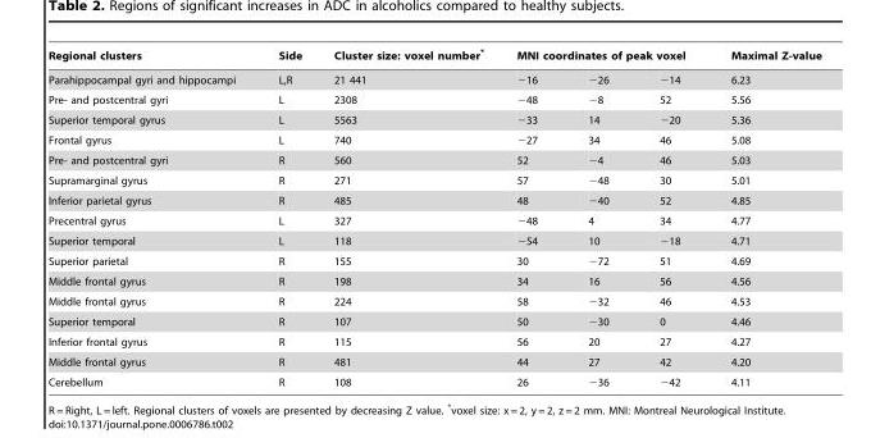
<table><thead><tr><td rowspan="2">Regional clusters Parahippocampal gyri and hippocampi</td><td rowspan="2">Side L,R</td><td rowspan="2">Cluster size: voxel number* 21 441</td><td colspan="3">MNI coordinates of peak voxel</td><td rowspan="2">Maximal Z-value 6.23</td></tr><tr><td>−16</td><td>−26</td><td>−14</td></tr></thead><tbody><tr><td>Pre- and postcentral gyri</td><td>L</td><td>2308</td><td>−48</td><td>−8</td><td>52</td><td>5.56</td></tr><tr><td>Superior temporal gyrus</td><td>L</td><td>5563</td><td>−33</td><td>14</td><td>−20</td><td>5.36</td></tr><tr><td>Frontal gyrus</td><td>L</td><td>740</td><td>−27</td><td>34</td><td>46</td><td>5.08</td></tr><tr><td>Pre- and postcentral gyri</td><td>R</td><td>560</td><td>52</td><td>−4</td><td>46</td><td>5.03</td></tr><tr><td>Supramarginal gyrus</td><td>R</td><td>271</td><td>57</td><td>−48</td><td>30</td><td>5.01</td></tr><tr><td>Inferior parietal gyrus</td><td>R</td><td>485</td><td>48</td><td>−40</td><td>52</td><td>4.85</td></tr><tr><td>Precentral gyrus</td><td>L</td><td>327</td><td>−48</td><td>4</td><td>34</td><td>4.77</td></tr><tr><td>Superior temporal</td><td>L</td><td>118</td><td>−54</td><td>10</td><td>−18</td><td>4.71</td></tr><tr><td>Superior parietal</td><td>R</td><td>155</td><td>30</td><td>−72</td><td>51</td><td>4.69</td></tr><tr><td>Middle frontal gyrus</td><td>R</td><td>198</td><td>34</td><td>16</td><td>56</td><td>4.56</td></tr><tr><td>Middle frontal gyrus</td><td>R</td><td>224</td><td>58</td><td>−32</td><td>46</td><td>4.53</td></tr><tr><td>Superior temporal</td><td>R</td><td>107</td><td>50</td><td>−30</td><td>0</td><td>4.46</td></tr><tr><td>Inferior frontal gyrus</td><td>R</td><td>115</td><td>56</td><td>20</td><td>27</td><td>4.27</td></tr><tr><td>Middle frontal gyrus</td><td>R</td><td>481</td><td>44</td><td>27</td><td>42</td><td>4.20</td></tr><tr><td>Cerebellum</td><td>R</td><td>108</td><td>26</td><td>−36</td><td>−42</td><td>4.11</td></tr></tbody></table>